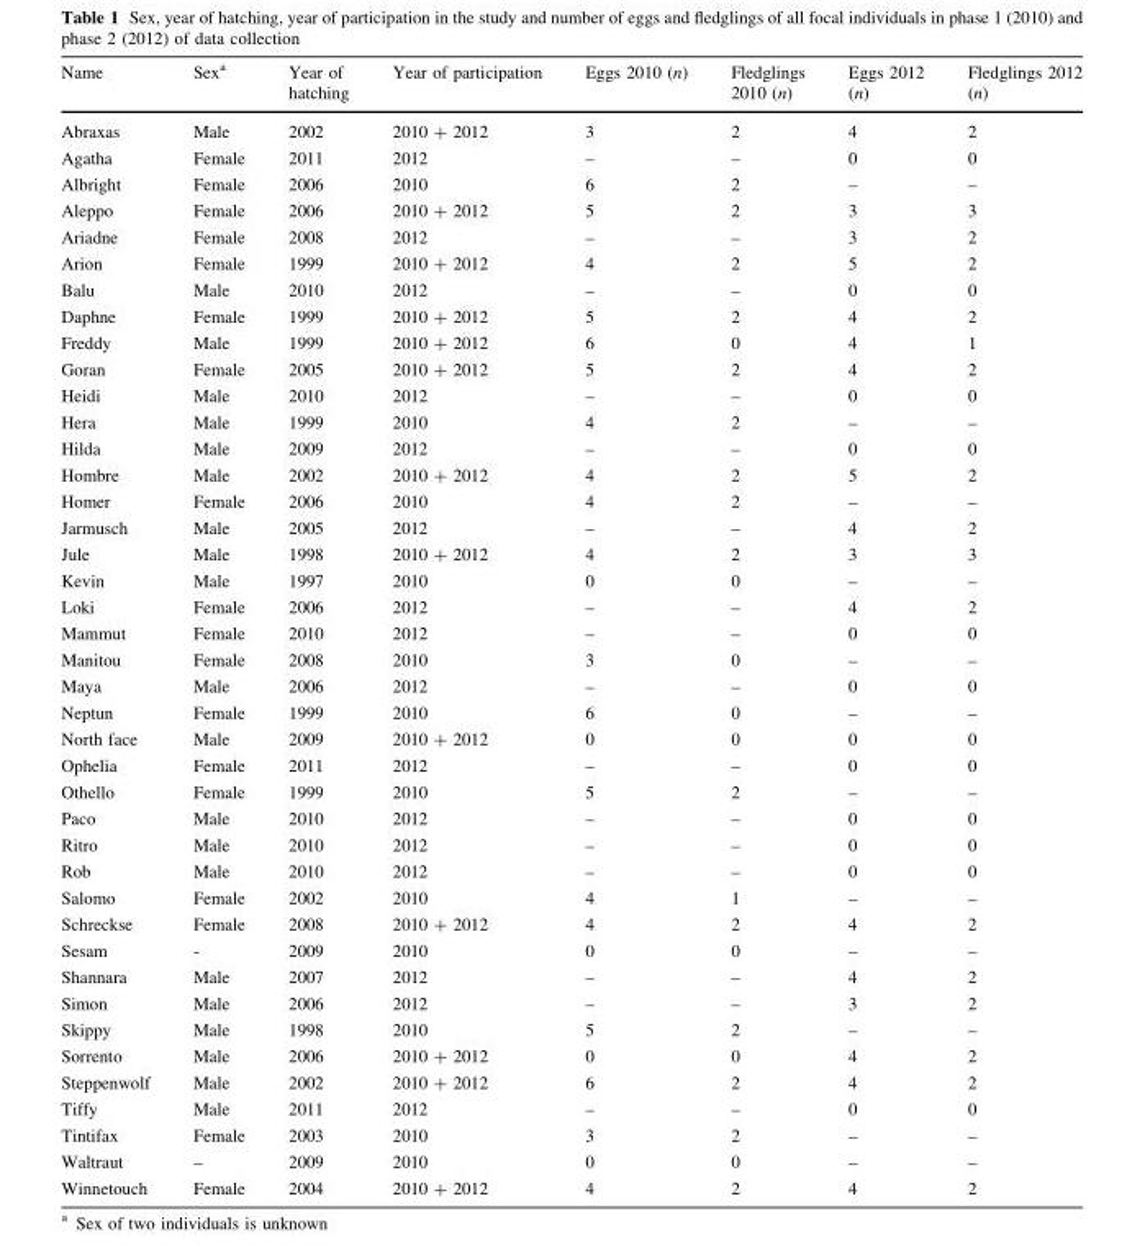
<table><thead><tr><td>Name</td><td>Sex<sup>a</sup></td><td>Year of hatching</td><td>Year of participation</td><td>Eggs 2010 (n)</td><td>Fledglings 2010 (n)</td><td>Eggs 2012 (n)</td><td>Fledglings 2012 (n)</td></tr></thead><tbody><tr><td>Abraxas</td><td>Male</td><td>2002</td><td>2010 + 2012</td><td>3</td><td>2</td><td>4</td><td>2</td></tr><tr><td>Agatha</td><td>Female</td><td>2011</td><td>2012</td><td>–</td><td>–</td><td>0</td><td>0</td></tr><tr><td>Albright</td><td>Female</td><td>2006</td><td>2010</td><td>6</td><td>2</td><td>–</td><td>–</td></tr><tr><td>Aleppo</td><td>Female</td><td>2006</td><td>2010 + 2012</td><td>5</td><td>2</td><td>3</td><td>3</td></tr><tr><td>Ariadne</td><td>Female</td><td>2008</td><td>2012</td><td>–</td><td>–</td><td>3</td><td>2</td></tr><tr><td>Arion</td><td>Female</td><td>1999</td><td>2010 + 2012</td><td>4</td><td>2</td><td>5</td><td>2</td></tr><tr><td>Balu</td><td>Male</td><td>2010</td><td>2012</td><td>–</td><td>–</td><td>0</td><td>0</td></tr><tr><td>Daphne</td><td>Female</td><td>1999</td><td>2010 + 2012</td><td>5</td><td>2</td><td>4</td><td>2</td></tr><tr><td>Freddy</td><td>Male</td><td>1999</td><td>2010 + 2012</td><td>6</td><td>0</td><td>4</td><td>1</td></tr><tr><td>Goran</td><td>Female</td><td>2005</td><td>2010 + 2012</td><td>5</td><td>2</td><td>4</td><td>2</td></tr><tr><td>Heidi</td><td>Male</td><td>2010</td><td>2012</td><td>–</td><td>–</td><td>0</td><td>0</td></tr><tr><td>Hera</td><td>Male</td><td>1999</td><td>2010</td><td>4</td><td>2</td><td>–</td><td>–</td></tr><tr><td>Hilda</td><td>Male</td><td>2009</td><td>2012</td><td>–</td><td>–</td><td>0</td><td>0</td></tr><tr><td>Hombre</td><td>Male</td><td>2002</td><td>2010 + 2012</td><td>4</td><td>2</td><td>5</td><td>2</td></tr><tr><td>Homer</td><td>Female</td><td>2006</td><td>2010</td><td>4</td><td>2</td><td>–</td><td>–</td></tr><tr><td>Jarmusch</td><td>Male</td><td>2005</td><td>2012</td><td>–</td><td>–</td><td>4</td><td>2</td></tr><tr><td>Jule</td><td>Male</td><td>1998</td><td>2010 + 2012</td><td>4</td><td>2</td><td>3</td><td>3</td></tr><tr><td>Kevin</td><td>Male</td><td>1997</td><td>2010</td><td>0</td><td>0</td><td>–</td><td>–</td></tr><tr><td>Loki</td><td>Female</td><td>2006</td><td>2012</td><td>–</td><td>–</td><td>4</td><td>2</td></tr><tr><td>Mammut</td><td>Female</td><td>2010</td><td>2012</td><td>–</td><td>–</td><td>0</td><td>0</td></tr><tr><td>Manitou</td><td>Female</td><td>2008</td><td>2010</td><td>3</td><td>0</td><td>–</td><td>–</td></tr><tr><td>Maya</td><td>Male</td><td>2006</td><td>2012</td><td>–</td><td>–</td><td>0</td><td>0</td></tr><tr><td>Neptun</td><td>Female</td><td>1999</td><td>2010</td><td>6</td><td>0</td><td>–</td><td>–</td></tr><tr><td>North face</td><td>Male</td><td>2009</td><td>2010 + 2012</td><td>0</td><td>0</td><td>0</td><td>0</td></tr><tr><td>Ophelia</td><td>Female</td><td>2011</td><td>2012</td><td>–</td><td>–</td><td>0</td><td>0</td></tr><tr><td>Othello</td><td>Female</td><td>1999</td><td>2010</td><td>5</td><td>2</td><td>–</td><td>–</td></tr><tr><td>Paco</td><td>Male</td><td>2010</td><td>2012</td><td>–</td><td>–</td><td>0</td><td>0</td></tr><tr><td>Ritro</td><td>Male</td><td>2010</td><td>2012</td><td>–</td><td>–</td><td>0</td><td>0</td></tr><tr><td>Rob</td><td>Male</td><td>2010</td><td>2012</td><td>–</td><td>–</td><td>0</td><td>0</td></tr><tr><td>Salomo</td><td>Female</td><td>2002</td><td>2010</td><td>4</td><td>1</td><td>–</td><td>–</td></tr><tr><td>Schreckse</td><td>Female</td><td>2008</td><td>2010 + 2012</td><td>4</td><td>2</td><td>4</td><td>2</td></tr><tr><td>Sesam</td><td>-</td><td>2009</td><td>2010</td><td>0</td><td>0</td><td>–</td><td>–</td></tr><tr><td>Shannara</td><td>Male</td><td>2007</td><td>2012</td><td>–</td><td>–</td><td>4</td><td>2</td></tr><tr><td>Simon</td><td>Male</td><td>2006</td><td>2012</td><td>–</td><td>–</td><td>3</td><td>2</td></tr><tr><td>Skippy</td><td>Male</td><td>1998</td><td>2010</td><td>5</td><td>2</td><td>–</td><td>–</td></tr><tr><td>Sorrento</td><td>Male</td><td>2006</td><td>2010 + 2012</td><td>0</td><td>0</td><td>4</td><td>2</td></tr><tr><td>Steppenwolf</td><td>Male</td><td>2002</td><td>2010 + 2012</td><td>6</td><td>2</td><td>4</td><td>2</td></tr><tr><td>Tiffy</td><td>Male</td><td>2011</td><td>2012</td><td>–</td><td>–</td><td>0</td><td>0</td></tr><tr><td>Tintifax</td><td>Female</td><td>2003</td><td>2010</td><td>3</td><td>2</td><td>–</td><td>–</td></tr><tr><td>Waltraut</td><td>–</td><td>2009</td><td>2010</td><td>0</td><td>0</td><td>–</td><td>–</td></tr><tr><td>Winnetouch</td><td>Female</td><td>2004</td><td>2010 + 2012</td><td>4</td><td>2</td><td>4</td><td>2</td></tr></tbody></table>